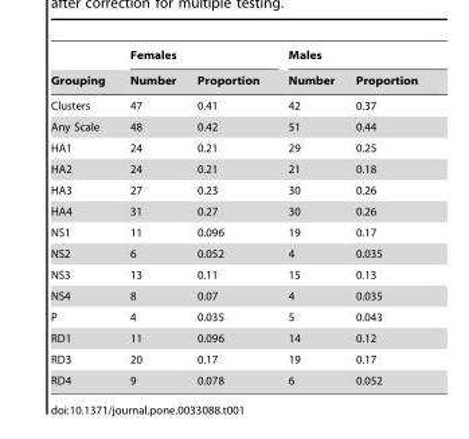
<table><thead><tr><td rowspan="2">Grouping</td><td colspan="2">Females</td><td colspan="2">Males</td></tr><tr><td>Number</td><td>Proportion</td><td>Number</td><td>Proportion</td></tr></thead><tbody><tr><td>Clusters</td><td>47</td><td>0.41</td><td>42</td><td>0.37</td></tr><tr><td>Any Scale</td><td>48</td><td>0.42</td><td>51</td><td>0.44</td></tr><tr><td>HA1</td><td>24</td><td>0.21</td><td>29</td><td>0.25</td></tr><tr><td>HA2</td><td>24</td><td>0.21</td><td>21</td><td>0.18</td></tr><tr><td>HA3</td><td>27</td><td>0.23</td><td>30</td><td>0.26</td></tr><tr><td>HA4</td><td>31</td><td>0.27</td><td>30</td><td>0.26</td></tr><tr><td>NS1</td><td>11</td><td>0.096</td><td>19</td><td>0.17</td></tr><tr><td>NS2</td><td>6</td><td>0.052</td><td>4</td><td>0.035</td></tr><tr><td>NS3</td><td>13</td><td>0.11</td><td>15</td><td>0.13</td></tr><tr><td>NS4</td><td>8</td><td>0.07</td><td>4</td><td>0.035</td></tr><tr><td>P</td><td>4</td><td>0.035</td><td>5</td><td>0.043</td></tr><tr><td>RD1</td><td>11</td><td>0.096</td><td>14</td><td>0.12</td></tr><tr><td>RD3</td><td>20</td><td>0.17</td><td>19</td><td>0.17</td></tr><tr><td>RD4</td><td>9</td><td>0.078</td><td>6</td><td>0.052</td></tr></tbody></table>